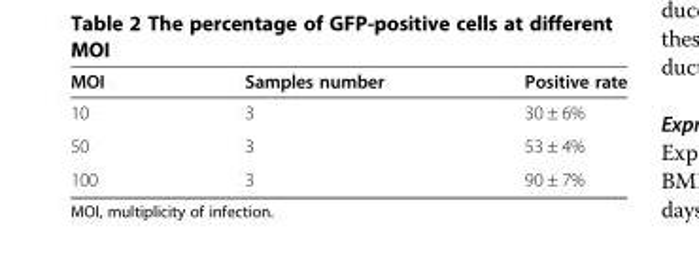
<table><thead><tr><td>MOI</td><td>Samples number</td><td>Positive rate</td></tr></thead><tbody><tr><td>10</td><td>3</td><td>30 ± 6%</td></tr><tr><td>50</td><td>3</td><td>53 ± 4%</td></tr><tr><td>100</td><td>3</td><td>90 ± 7%</td></tr></tbody></table>